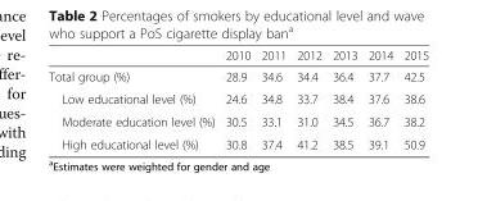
<table><thead><tr><td></td><td>2010</td><td>2011</td><td>2012</td><td>2013</td><td>2014</td><td>2015</td></tr></thead><tbody><tr><td>Total group (%)</td><td>28.9</td><td>34.6</td><td>34.4</td><td>36.4</td><td>37.7</td><td>42.5</td></tr><tr><td>Low educational level (%)</td><td>24.6</td><td>34.8</td><td>33.7</td><td>38.4</td><td>37.6</td><td>38.6</td></tr><tr><td>Moderate education level (%)</td><td>30.5</td><td>33.1</td><td>31.0</td><td>34.5</td><td>36.7</td><td>38.2</td></tr><tr><td>High educational level (%)</td><td>30.8</td><td>37.4</td><td>41.2</td><td>38.5</td><td>39.1</td><td>50.9</td></tr></tbody></table>